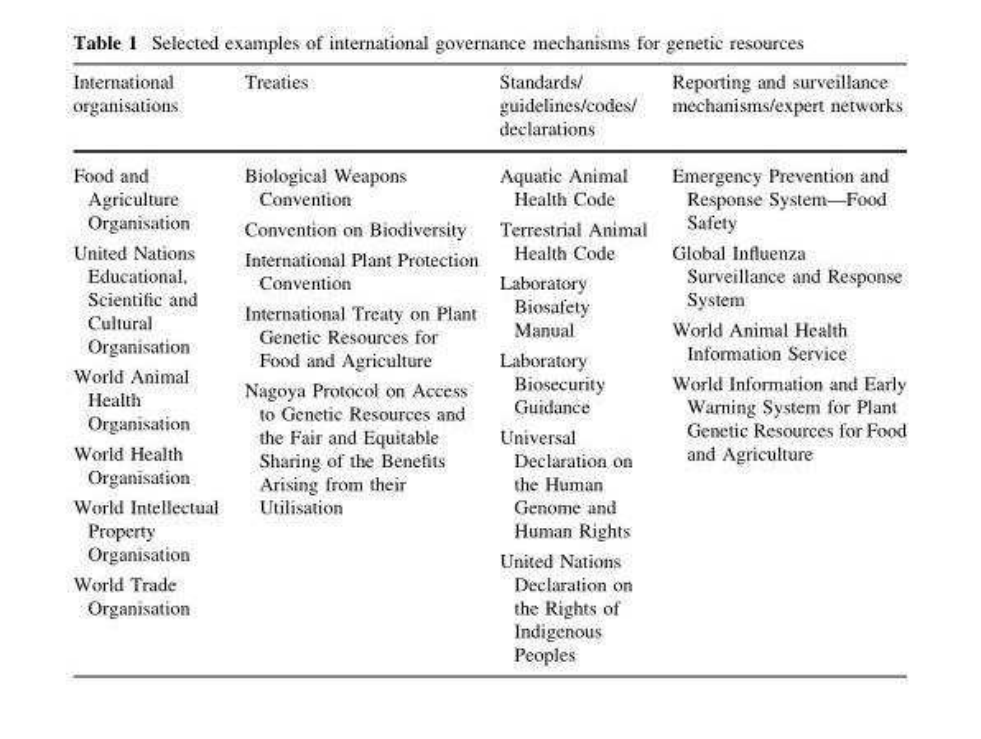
<table><thead><tr><td>International organisations</td><td>Treaties</td><td>Standards/ guidelines/codes/ declarations</td><td>Reporting and surveillance mechanisms/expert networks</td></tr></thead><tbody><tr><td>Food and Agriculture Organisation United Nations Educational, Scientific and Cultural Organisation World Animal Health Organisation World Health Organisation World Intellectual Property Organisation World Trade Organisation</td><td>Biological Weapons Convention Convention on Biodiversity International Plant Protection Convention International Treaty on Plant Genetic Resources for Food and Agriculture Nagoya Protocol on Access to Genetic Resources and the Fair and Equitable Sharing of the Benefits Arising from their Utilisation</td><td>Aquatic Animal Health Code Terrestrial Animal Health Code Laboratory Biosafety Manual Laboratory Biosecurity Guidance Universal Declaration on the Human Genome and Human Rights United Nations Declaration on the Rights of Indigenous Peoples</td><td>Emergency Prevention and Response System—Food Safety Global Influenza Surveillance and Response System World Animal Health Information Service World Information and Early Warning System for Plant Genetic Resources for Food and Agriculture</td></tr></tbody></table>